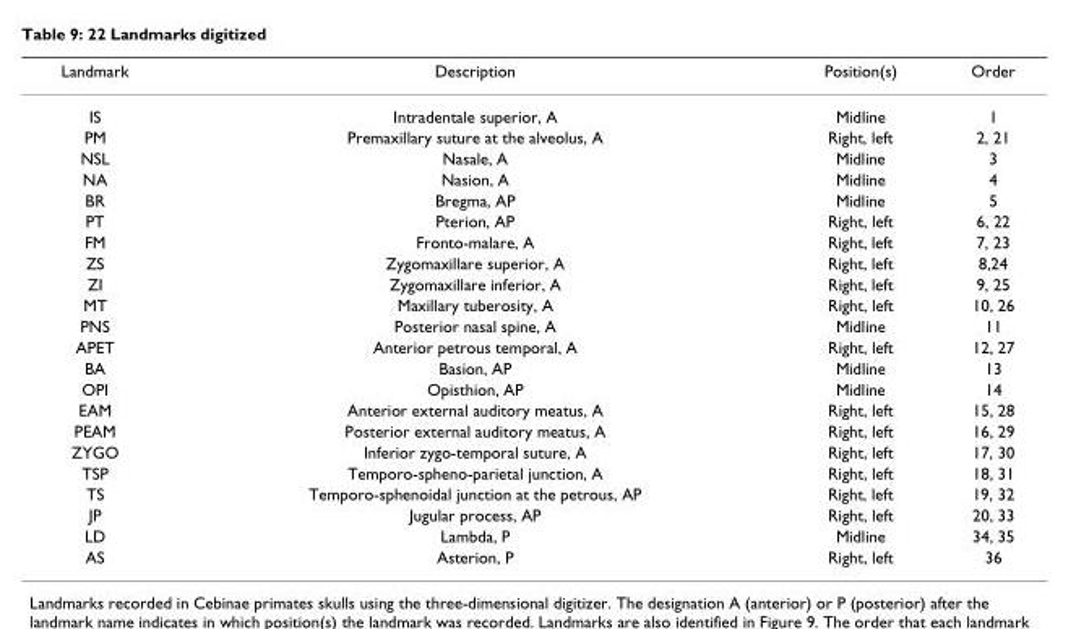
<table><thead><tr><td>Landmark</td><td>Description</td><td>Position(s)</td><td>Order</td></tr></thead><tbody><tr><td>IS</td><td>Intradentale superior, A</td><td>Midline</td><td>1</td></tr><tr><td>PM</td><td>Premaxillary suture at the alveolus, A</td><td>Right, left</td><td>2, 21</td></tr><tr><td>NSL</td><td>Nasale, A</td><td>Midline</td><td>3</td></tr><tr><td>NA</td><td>Nasion, A</td><td>Midline</td><td>4</td></tr><tr><td>BR</td><td>Bregma, AP</td><td>Midline</td><td>5</td></tr><tr><td>PT</td><td>Pterion, AP</td><td>Right, left</td><td>6, 22</td></tr><tr><td>FM</td><td>Fronto-malare, A</td><td>Right, left</td><td>7, 23</td></tr><tr><td>ZS</td><td>Zygomaxillare superior, A</td><td>Right, left</td><td>8,24</td></tr><tr><td>ZI</td><td>Zygomaxillare inferior, A</td><td>Right, left</td><td>9, 25</td></tr><tr><td>MT</td><td>Maxillary tuberosity, A</td><td>Right, left</td><td>10, 26</td></tr><tr><td>PNS</td><td>Posterior nasal spine, A</td><td>Midline</td><td>11</td></tr><tr><td>APET</td><td>Anterior petrous temporal, A</td><td>Right, left</td><td>12, 27</td></tr><tr><td>BA</td><td>Basion, AP</td><td>Midline</td><td>13</td></tr><tr><td>OPI</td><td>Opisthion, AP</td><td>Midline</td><td>14</td></tr><tr><td>EAM</td><td>Anterior external auditory meatus, A</td><td>Right, left</td><td>15, 28</td></tr><tr><td>PEAM</td><td>Posterior external auditory meatus, A</td><td>Right, left</td><td>16, 29</td></tr><tr><td>ZYGO</td><td>Inferior zygo-temporal suture, A</td><td>Right, left</td><td>17, 30</td></tr><tr><td>TSP</td><td>Temporo-spheno-parietal junction, A</td><td>Right, left</td><td>18, 31</td></tr><tr><td>TS</td><td>Temporo-sphenoidal junction at the petrous, AP</td><td>Right, left</td><td>19, 32</td></tr><tr><td>JP</td><td>Jugular process, AP</td><td>Right, left</td><td>20, 33</td></tr><tr><td>LD</td><td>Lambda, P</td><td>Midline</td><td>34, 35</td></tr><tr><td>AS</td><td>Asterion, P</td><td>Right, left</td><td>36</td></tr></tbody></table>